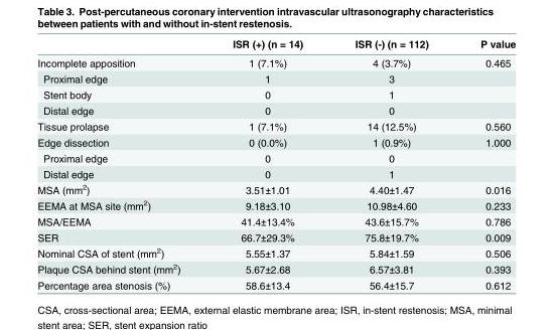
<table><thead><tr><td></td><td>ISR (+) (n = 14)</td><td>ISR (-) (n = 112)</td><td>P value</td></tr></thead><tbody><tr><td>Incomplete apposition</td><td>1 (7.1%)</td><td>4 (3.7%)</td><td>0.465</td></tr><tr><td>Proximal edge</td><td>1</td><td>3</td><td></td></tr><tr><td>Stent body</td><td>0</td><td>1</td><td></td></tr><tr><td>Distal edge</td><td>0</td><td>0</td><td></td></tr><tr><td>Tissue prolapse</td><td>1 (7.1%)</td><td>14 (12.5%)</td><td>0.560</td></tr><tr><td>Edge dissection</td><td>0 (0.0%)</td><td>1 (0.9%)</td><td>1.000</td></tr><tr><td>Proximal edge</td><td>0</td><td>0</td><td></td></tr><tr><td>Distal edge</td><td>0</td><td>1</td><td></td></tr><tr><td>MSA (mm<sup>2</sup>)</td><td>3.51±1.01</td><td>4.40±1.47</td><td>0.016</td></tr><tr><td>EEMA at MSA site (mm<sup>2</sup>)</td><td>9.18±3.10</td><td>10.98±4.60</td><td>0.233</td></tr><tr><td>MSA/EEMA</td><td>41.4±13.4%</td><td>43.6±15.7%</td><td>0.786</td></tr><tr><td>SER</td><td>66.7±29.3%</td><td>75.8±19.7%</td><td>0.009</td></tr><tr><td>Nominal CSA of stent (mm<sup>2</sup>)</td><td>5.55±1.37</td><td>5.84±1.59</td><td>0.506</td></tr><tr><td>Plaque CSA behind stent (mm<sup>2</sup>)</td><td>5.67±2.68</td><td>6.57±3.81</td><td>0.393</td></tr><tr><td>Percentage area stenosis (%)</td><td>58.6±13.4</td><td>56.4±15.7</td><td>0.612</td></tr></tbody></table>